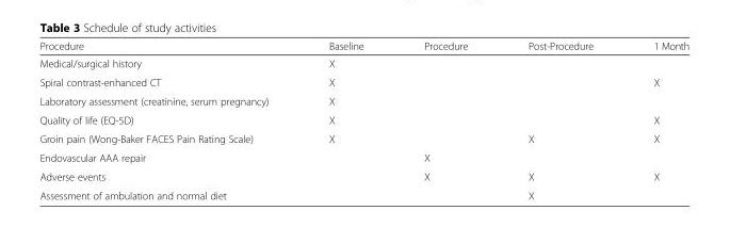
<table><thead><tr><td>Procedure</td><td>Baseline</td><td>Procedure</td><td>Post-Procedure</td><td>1 Month</td></tr></thead><tbody><tr><td>Medical/surgical history</td><td>X</td><td></td><td></td><td></td></tr><tr><td>Spiral contrast-enhanced CT</td><td>X</td><td></td><td></td><td>X</td></tr><tr><td>Laboratory assessment (creatinine, serum pregnancy)</td><td>X</td><td></td><td></td><td></td></tr><tr><td>Quality of life (EQ-5D)</td><td>X</td><td></td><td></td><td>X</td></tr><tr><td>Groin pain (Wong-Baker FACES Pain Rating Scale)</td><td>X</td><td></td><td>X</td><td>X</td></tr><tr><td>Endovascular AAA repair</td><td></td><td>X</td><td></td><td></td></tr><tr><td>Adverse events</td><td></td><td>X</td><td>X</td><td>X</td></tr><tr><td>Assessment of ambulation and normal diet</td><td></td><td></td><td>X</td><td></td></tr></tbody></table>